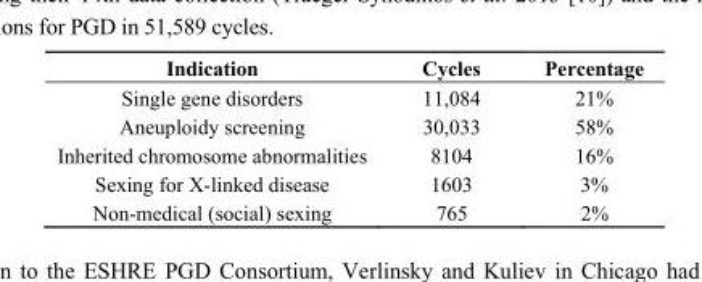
<table><thead><tr><td>Indication</td><td>Cycles</td><td>Percentage</td></tr></thead><tbody><tr><td>Single gene disorders</td><td>11,084</td><td>21%</td></tr><tr><td>Aneuploidy screening</td><td>30,033</td><td>58%</td></tr><tr><td>Inherited chromosome abnormalities</td><td>8104</td><td>16%</td></tr><tr><td>Sexing for X-linked disease</td><td>1603</td><td>3%</td></tr><tr><td>Non-medical (social) sexing</td><td>765</td><td>2%</td></tr></tbody></table>